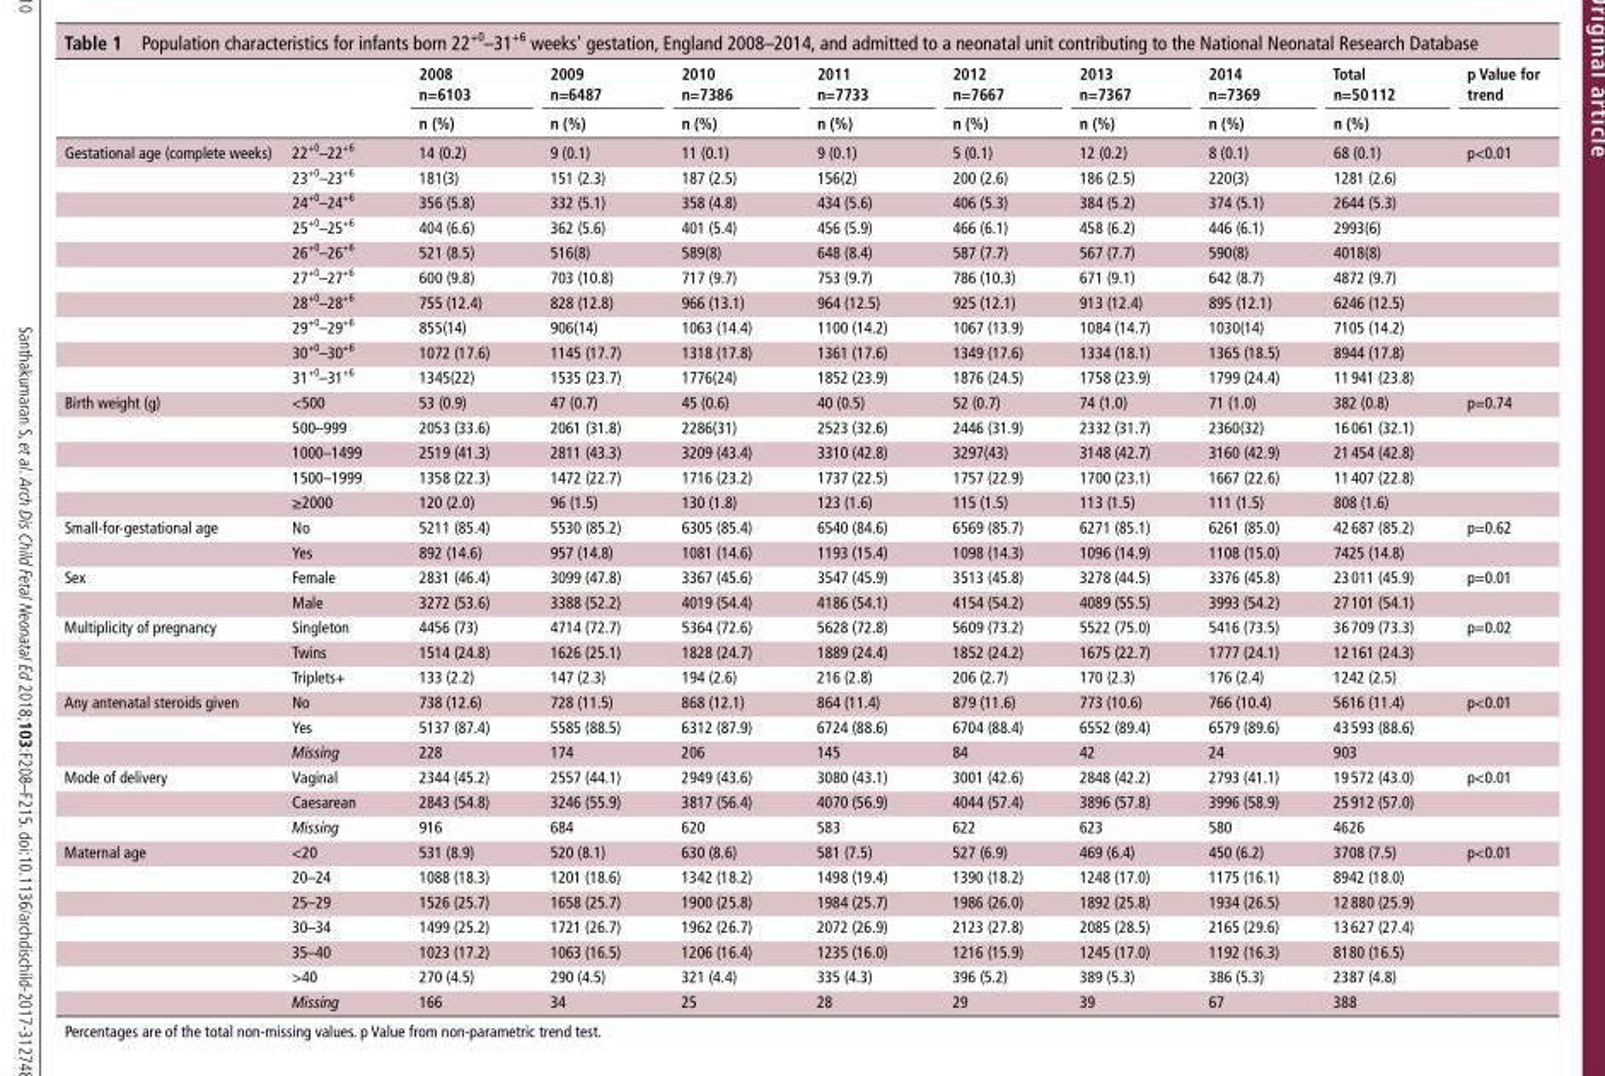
<table><thead><tr><td rowspan="2"></td><td rowspan="2"></td><td rowspan="2">2008 n=6103 n (%)</td><td rowspan="2">2009 n=6487 n (%)</td><td rowspan="2">2010 n=7386 n (%)</td><td rowspan="2">2011 n=7733 n (%)</td><td rowspan="2">2012 n=7667 n (%)</td><td rowspan="2">2013 n=7367 n (%)</td><td rowspan="2">2014 n=7369 n (%)</td><td rowspan="2">Total n=50 112 n (%)</td><td rowspan="2">p Value for trend</td></tr><tr></tr></thead><tbody><tr><td rowspan="10">Gestational age (complete weeks)</td><td>22<sup>+0</sup>–22<sup>+6</sup></td><td>14 (0.2)</td><td>9 (0.1)</td><td>11 (0.1)</td><td>9 (0.1)</td><td>5 (0.1)</td><td>12 (0.2)</td><td>8 (0.1)</td><td>68 (0.1)</td><td>p&lt;0.01</td></tr><tr><td>23<sup>+0</sup>–23<sup>+6</sup></td><td>181(3)</td><td>151 (2.3)</td><td>187 (2.5)</td><td>156(2)</td><td>200 (2.6)</td><td>186 (2.5)</td><td>220(3)</td><td>1281 (2.6)</td><td></td></tr><tr><td>24<sup>+0</sup>–24<sup>+6</sup></td><td>356 (5.8)</td><td>332 (5.1)</td><td>358 (4.8)</td><td>434 (5.6)</td><td>406 (5.3)</td><td>384 (5.2)</td><td>374 (5.1)</td><td>2644 (5.3)</td><td></td></tr><tr><td>25<sup>+0</sup>–25<sup>+6</sup></td><td>404 (6.6)</td><td>362 (5.6)</td><td>401 (5.4)</td><td>456 (5.9)</td><td>466 (6.1)</td><td>458 (6.2)</td><td>446 (6.1)</td><td>2993(6)</td><td></td></tr><tr><td>26<sup>+0</sup>–26<sup>+6</sup></td><td>521 (8.5)</td><td>516(8)</td><td>589(8)</td><td>648 (8.4)</td><td>587 (7.7)</td><td>567 (7.7)</td><td>590(8)</td><td>4018(8)</td><td></td></tr><tr><td>27<sup>+0</sup>–27<sup>+6</sup></td><td>600 (9.8)</td><td>703 (10.8)</td><td>717 (9.7)</td><td>753 (9.7)</td><td>786 (10.3)</td><td>671 (9.1)</td><td>642 (8.7)</td><td>4872 (9.7)</td><td></td></tr><tr><td>28<sup>+0</sup>–28<sup>+6</sup></td><td>755 (12.4)</td><td>828 (12.8)</td><td>966 (13.1)</td><td>964 (12.5)</td><td>925 (12.1)</td><td>913 (12.4)</td><td>895 (12.1)</td><td>6246 (12.5)</td><td></td></tr><tr><td>29<sup>+0</sup>–29<sup>+6</sup></td><td>855(14)</td><td>906(14)</td><td>1063 (14.4)</td><td>1100 (14.2)</td><td>1067 (13.9)</td><td>1084 (14.7)</td><td>1030(14)</td><td>7105 (14.2)</td><td></td></tr><tr><td>30<sup>+0</sup>–30<sup>+6</sup></td><td>1072 (17.6)</td><td>1145 (17.7)</td><td>1318 (17.8)</td><td>1361 (17.6)</td><td>1349 (17.6)</td><td>1334 (18.1)</td><td>1365 (18.5)</td><td>8944 (17.8)</td><td></td></tr><tr><td>31<sup>+0</sup>–31<sup>+6</sup></td><td>1345(22)</td><td>1535 (23.7)</td><td>1776(24)</td><td>1852 (23.9)</td><td>1876 (24.5)</td><td>1758 (23.9)</td><td>1799 (24.4)</td><td>11 941 (23.8)</td><td></td></tr><tr><td rowspan="5">Birth weight (g)</td><td>&lt;500</td><td>53 (0.9)</td><td>47 (0.7)</td><td>45 (0.6)</td><td>40 (0.5)</td><td>52 (0.7)</td><td>74 (1.0)</td><td>71 (1.0)</td><td>382 (0.8)</td><td>p=0.74</td></tr><tr><td>500–999</td><td>2053 (33.6)</td><td>2061 (31.8)</td><td>2286(31)</td><td>2523 (32.6)</td><td>2446 (31.9)</td><td>2332 (31.7)</td><td>2360(32)</td><td>16 061 (32.1)</td><td></td></tr><tr><td>1000–1499</td><td>2519 (41.3)</td><td>2811 (43.3)</td><td>3209 (43.4)</td><td>3310 (42.8)</td><td>3297(43)</td><td>3148 (42.7)</td><td>3160 (42.9)</td><td>21 454 (42.8)</td><td></td></tr><tr><td>1500–1999</td><td>1358 (22.3)</td><td>1472 (22.7)</td><td>1716 (23.2)</td><td>1737 (22.5)</td><td>1757 (22.9)</td><td>1700 (23.1)</td><td>1667 (22.6)</td><td>11 407 (22.8)</td><td></td></tr><tr><td>≥2000</td><td>120 (2.0)</td><td>96 (1.5)</td><td>130 (1.8)</td><td>123 (1.6)</td><td>115 (1.5)</td><td>113 (1.5)</td><td>111 (1.5)</td><td>808 (1.6)</td><td></td></tr><tr><td rowspan="2">Small-for-gestational age</td><td>No</td><td>5211 (85.4)</td><td>5530 (85.2)</td><td>6305 (85.4)</td><td>6540 (84.6)</td><td>6569 (85.7)</td><td>6271 (85.1)</td><td>6261 (85.0)</td><td>42 687 (85.2)</td><td>p=0.62</td></tr><tr><td>Yes</td><td>892 (14.6)</td><td>957 (14.8)</td><td>1081 (14.6)</td><td>1193 (15.4)</td><td>1098 (14.3)</td><td>1096 (14.9)</td><td>1108 (15.0)</td><td>7425 (14.8)</td><td></td></tr><tr><td rowspan="2">Sex</td><td>Female</td><td>2831 (46.4)</td><td>3099 (47.8)</td><td>3367 (45.6)</td><td>3547 (45.9)</td><td>3513 (45.8)</td><td>3278 (44.5)</td><td>3376 (45.8)</td><td>23 011 (45.9)</td><td>p=0.01</td></tr><tr><td>Male</td><td>3272 (53.6)</td><td>3388 (52.2)</td><td>4019 (54.4)</td><td>4186 (54.1)</td><td>4154 (54.2)</td><td>4089 (55.5)</td><td>3993 (54.2)</td><td>27 101 (54.1)</td><td></td></tr><tr><td rowspan="3">Multiplicity of pregnancy</td><td>Singleton</td><td>4456 (73)</td><td>4714 (72.7)</td><td>5364 (72.6)</td><td>5628 (72.8)</td><td>5609 (73.2)</td><td>5522 (75.0)</td><td>5416 (73.5)</td><td>36 709 (73.3)</td><td>p=0.02</td></tr><tr><td>Twins</td><td>1514 (24.8)</td><td>1626 (25.1)</td><td>1828 (24.7)</td><td>1889 (24.4)</td><td>1852 (24.2)</td><td>1675 (22.7)</td><td>1777 (24.1)</td><td>12 161 (24.3)</td><td></td></tr><tr><td>Triplets+</td><td>133 (2.2)</td><td>147 (2.3)</td><td>194 (2.6)</td><td>216 (2.8)</td><td>206 (2.7)</td><td>170 (2.3)</td><td>176 (2.4)</td><td>1242 (2.5)</td><td></td></tr><tr><td rowspan="3">Any antenatal steroids given</td><td>No</td><td>738 (12.6)</td><td>728 (11.5)</td><td>868 (12.1)</td><td>864 (11.4)</td><td>879 (11.6)</td><td>773 (10.6)</td><td>766 (10.4)</td><td>5616 (11.4)</td><td>p&lt;0.01</td></tr><tr><td>Yes</td><td>5137 (87.4)</td><td>5585 (88.5)</td><td>6312 (87.9)</td><td>6724 (88.6)</td><td>6704 (88.4)</td><td>6552 (89.4)</td><td>6579 (89.6)</td><td>43 593 (88.6)</td><td></td></tr><tr><td>Missing</td><td>228</td><td>174</td><td>206</td><td>145</td><td>84</td><td>42</td><td>24</td><td>903</td><td></td></tr><tr><td rowspan="3">Mode of delivery</td><td>Vaginal</td><td>2344 (45.2)</td><td>2557 (44.1)</td><td>2949 (43.6)</td><td>3080 (43.1)</td><td>3001 (42.6)</td><td>2848 (42.2)</td><td>2793 (41.1)</td><td>19 572 (43.0)</td><td>p&lt;0.01</td></tr><tr><td>Caesarean</td><td>2843 (54.8)</td><td>3246 (55.9)</td><td>3817 (56.4)</td><td>4070 (56.9)</td><td>4044 (57.4)</td><td>3896 (57.8)</td><td>3996 (58.9)</td><td>25 912 (57.0)</td><td></td></tr><tr><td>Missing</td><td>916</td><td>684</td><td>620</td><td>583</td><td>622</td><td>623</td><td>580</td><td>4626</td><td></td></tr><tr><td rowspan="7">Maternal age</td><td>&lt;20</td><td>531 (8.9)</td><td>520 (8.1)</td><td>630 (8.6)</td><td>581 (7.5)</td><td>527 (6.9)</td><td>469 (6.4)</td><td>450 (6.2)</td><td>3708 (7.5)</td><td>p&lt;0.01</td></tr><tr><td>20–24</td><td>1088 (18.3)</td><td>1201 (18.6)</td><td>1342 (18.2)</td><td>1498 (19.4)</td><td>1390 (18.2)</td><td>1248 (17.0)</td><td>1175 (16.1)</td><td>8942 (18.0)</td><td></td></tr><tr><td>25–29</td><td>1526 (25.7)</td><td>1658 (25.7)</td><td>1900 (25.8)</td><td>1984 (25.7)</td><td>1986 (26.0)</td><td>1892 (25.8)</td><td>1934 (26.5)</td><td>12 880 (25.9)</td><td></td></tr><tr><td>30–34</td><td>1499 (25.2)</td><td>1721 (26.7)</td><td>1962 (26.7)</td><td>2072 (26.9)</td><td>2123 (27.8)</td><td>2085 (28.5)</td><td>2165 (29.6)</td><td>13 627 (27.4)</td><td></td></tr><tr><td>35–40</td><td>1023 (17.2)</td><td>1063 (16.5)</td><td>1206 (16.4)</td><td>1235 (16.0)</td><td>1216 (15.9)</td><td>1245 (17.0)</td><td>1192 (16.3)</td><td>8180 (16.5)</td><td></td></tr><tr><td>&gt;40</td><td>270 (4.5)</td><td>290 (4.5)</td><td>321 (4.4)</td><td>335 (4.3)</td><td>396 (5.2)</td><td>389 (5.3)</td><td>386 (5.3)</td><td>2387 (4.8)</td><td></td></tr><tr><td>Missing</td><td>166</td><td>34</td><td>25</td><td>28</td><td>29</td><td>39</td><td>67</td><td>388</td><td></td></tr></tbody></table>